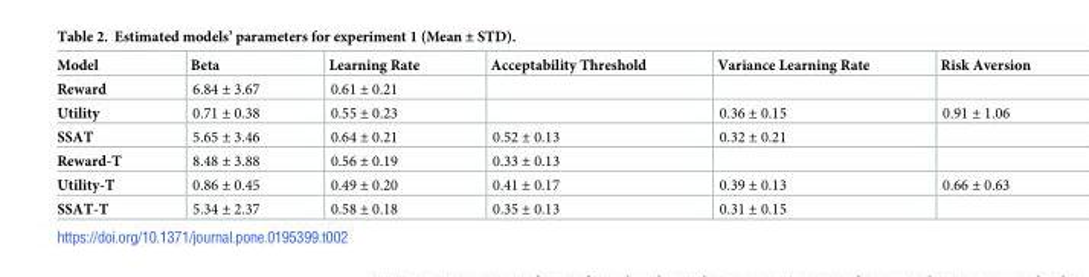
<table><thead><tr><td>Model</td><td>Beta</td><td>Learning Rate</td><td>Acceptability Threshold</td><td>Variance Learning Rate</td><td>Risk Aversion</td></tr></thead><tbody><tr><td>Reward</td><td>6.84 ± 3.67</td><td>0.61 ± 0.21</td><td></td><td></td><td></td></tr><tr><td>Utility</td><td>0.71 ± 0.38</td><td>0.55 ± 0.23</td><td></td><td>0.36 ± 0.15</td><td>0.91 ± 1.06</td></tr><tr><td>SSAT</td><td>5.65 ± 3.46</td><td>0.64 ± 0.21</td><td>0.52 ± 0.13</td><td>0.32 ± 0.21</td><td></td></tr><tr><td>Reward-T</td><td>8.48 ± 3.88</td><td>0.56 ± 0.19</td><td>0.33 ± 0.13</td><td></td><td></td></tr><tr><td>Utility-T</td><td>0.86 ± 0.45</td><td>0.49 ± 0.20</td><td>0.41 ± 0.17</td><td>0.39 ± 0.13</td><td>0.66 ± 0.63</td></tr><tr><td>SSAT-T</td><td>5.34 ± 2.37</td><td>0.58 ± 0.18</td><td>0.35 ± 0.13</td><td>0.31 ± 0.15</td><td></td></tr></tbody></table>